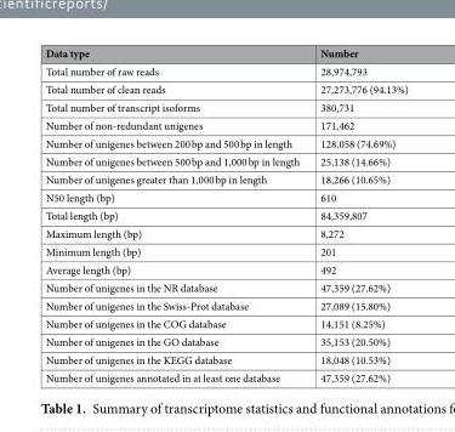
<table><thead><tr><td>Data type</td><td>Number</td></tr></thead><tbody><tr><td>Total number of raw reads</td><td>28,974,793</td></tr><tr><td>Total number of clean reads</td><td>27,273,776 (94.13%)</td></tr><tr><td>Total number of transcript isoforms</td><td>380,731</td></tr><tr><td>Number of non-redundant unigenes</td><td>171,462</td></tr><tr><td>Number of unigenes between 200 bp and 500 bp in length</td><td>128,058 (74.69%)</td></tr><tr><td>Number of unigenes between 500 bp and 1,000 bp in length</td><td>25,138 (14.66%)</td></tr><tr><td>Number of unigenes greater than 1,000 bp in length</td><td>18,266 (10.65%)</td></tr><tr><td>N50 length (bp)</td><td>610</td></tr><tr><td>Total length (bp)</td><td>84,359,807</td></tr><tr><td>Maximum length (bp)</td><td>8,272</td></tr><tr><td>Minimum length (bp)</td><td>201</td></tr><tr><td>Average length (bp)</td><td>492</td></tr><tr><td>Number of unigenes in the NR database</td><td>47,359 (27.62%)</td></tr><tr><td>Number of unigenes in the Swiss-Prot database</td><td>27,089 (15.80%)</td></tr><tr><td>Number of unigenes in the COG database</td><td>14,151 (8.25%)</td></tr><tr><td>Number of unigenes in the GO database</td><td>35,153 (20.50%)</td></tr><tr><td>Number of unigenes in the KEGG database</td><td>18,048 (10.53%)</td></tr><tr><td>Number of unigenes annotated in at least one database</td><td>47,359 (27.62%)</td></tr></tbody></table>